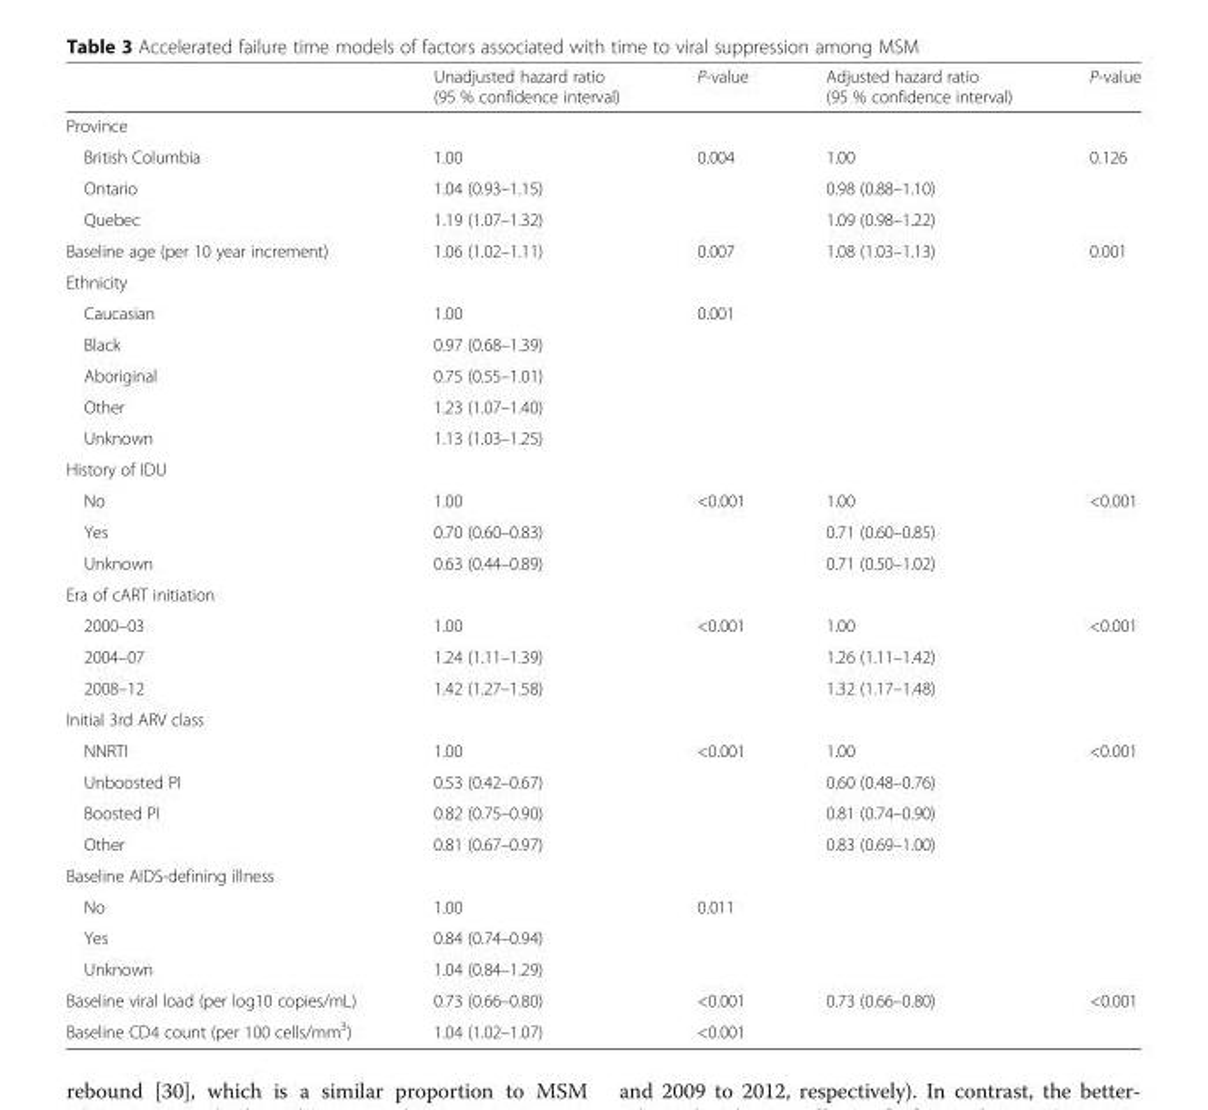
<table><thead><tr><td></td><td>Unadjusted hazard ratio (95 % confidence interval)</td><td>P-value</td><td>Adjusted hazard ratio (95 % confidence interval)</td><td>P-value</td></tr></thead><tbody><tr><td colspan="5">Province</td></tr><tr><td>British Columbia</td><td>1.00</td><td rowspan="3">0.004</td><td>1.00</td><td rowspan="3">0.126</td></tr><tr><td>Ontario</td><td>1.04 (0.93–1.15)</td><td>0.98 (0.88–1.10)</td></tr><tr><td>Quebec</td><td>1.19 (1.07–1.32)</td><td>1.09 (0.98–1.22)</td></tr><tr><td>Baseline age (per 10 year increment)</td><td>1.06 (1.02–1.11)</td><td>0.007</td><td>1.08 (1.03–1.13)</td><td>0.001</td></tr><tr><td colspan="5">Ethnicity</td></tr><tr><td>Caucasian</td><td>1.00</td><td rowspan="5">0.001</td><td rowspan="5"></td><td rowspan="5"></td></tr><tr><td>Black</td><td>0.97 (0.68–1.39)</td></tr><tr><td>Aboriginal</td><td>0.75 (0.55–1.01)</td></tr><tr><td>Other</td><td>1.23 (1.07–1.40)</td></tr><tr><td>Unknown</td><td>1.13 (1.03–1.25)</td></tr><tr><td colspan="5">History of IDU</td></tr><tr><td>No</td><td>1.00</td><td rowspan="3">&lt;0.001</td><td>1.00</td><td rowspan="3">&lt;0.001</td></tr><tr><td>Yes</td><td>0.70 (0.60–0.83)</td><td>0.71 (0.60–0.85)</td></tr><tr><td>Unknown</td><td>0.63 (0.44–0.89)</td><td>0.71 (0.50–1.02)</td></tr><tr><td colspan="5">Era of cART initiation</td></tr><tr><td>2000–03</td><td>1.00</td><td rowspan="3">&lt;0.001</td><td>1.00</td><td rowspan="3">&lt;0.001</td></tr><tr><td>2004–07</td><td>1.24 (1.11–1.39)</td><td>1.26 (1.11–1.42)</td></tr><tr><td>2008–12</td><td>1.42 (1.27–1.58)</td><td>1.32 (1.17–1.48)</td></tr><tr><td colspan="5">Initial 3rd ARV class</td></tr><tr><td>NNRTI</td><td>1.00</td><td rowspan="4">&lt;0.001</td><td>1.00</td><td rowspan="4">&lt;0.001</td></tr><tr><td>Unboosted PI</td><td>0.53 (0.42–0.67)</td><td>0.60 (0.48–0.76)</td></tr><tr><td>Boosted PI</td><td>0.82 (0.75–0.90)</td><td>0.81 (0.74–0.90)</td></tr><tr><td>Other</td><td>0.81 (0.67–0.97)</td><td>0.83 (0.69–1.00)</td></tr><tr><td colspan="5">Baseline AIDS-defining illness</td></tr><tr><td>No</td><td>1.00</td><td rowspan="3">0.011</td><td rowspan="3"></td><td rowspan="3"></td></tr><tr><td>Yes</td><td>0.84 (0.74–0.94)</td></tr><tr><td>Unknown</td><td>1.04 (0.84–1.29)</td></tr><tr><td>Baseline viral load (per log10 copies/mL)</td><td>0.73 (0.66–0.80)</td><td>&lt;0.001</td><td>0.73 (0.66–0.80)</td><td>&lt;0.001</td></tr><tr><td>Baseline CD4 count (per 100 cells/mm<sup>3</sup>)</td><td>1.04 (1.02–1.07)</td><td>&lt;0.001</td><td></td><td></td></tr></tbody></table>